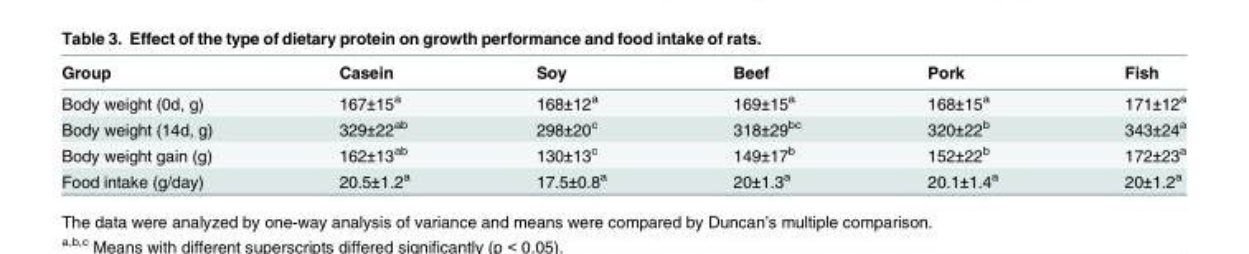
<table><thead><tr><td>Group</td><td>Casein</td><td>Soy</td><td>Beef</td><td>Pork</td><td>Fish</td></tr></thead><tbody><tr><td>Body weight (0d, g)</td><td>167±15<sup>a</sup></td><td>168±12<sup>a</sup></td><td>169±15<sup>a</sup></td><td>168±15<sup>a</sup></td><td>171±12<sup>a</sup></td></tr><tr><td>Body weight (14d, g)</td><td>329±22<sup>ab</sup></td><td>298±20<sup>c</sup></td><td>318±29<sup>bc</sup></td><td>320±22<sup>b</sup></td><td>343±24<sup>a</sup></td></tr><tr><td>Body weight gain (g)</td><td>162±13<sup>ab</sup></td><td>130±13<sup>c</sup></td><td>149±17<sup>b</sup></td><td>152±22<sup>b</sup></td><td>172±23<sup>a</sup></td></tr><tr><td>Food intake (g/day)</td><td>20.5±1.2<sup>a</sup></td><td>17.5±0.8<sup>a</sup></td><td>20±1.3<sup>a</sup></td><td>20.1±1.4<sup>a</sup></td><td>20±1.2<sup>a</sup></td></tr></tbody></table>